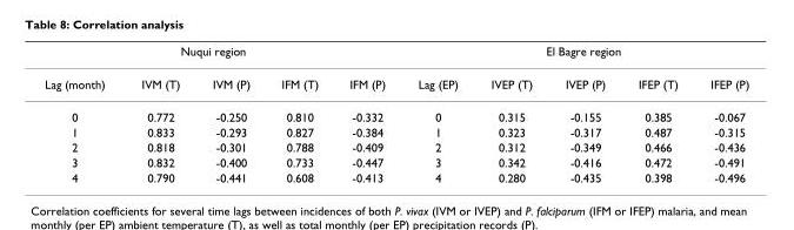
<table><thead><tr><td colspan="5">Nuqui region</td><td colspan="5">El Bagre region</td></tr><tr><td>Lag (month)</td><td>IVM (T)</td><td>IVM (P)</td><td>IFM (T)</td><td>IFM (P)</td><td>Lag (EP)</td><td>IVEP (T)</td><td>IVEP (P)</td><td>IFEP (T)</td><td>IFEP (P)</td></tr></thead><tbody><tr><td>0</td><td>0.772</td><td>-0.250</td><td>0.810</td><td>-0.332</td><td>0</td><td>0.315</td><td>-0.155</td><td>0.385</td><td>-0.067</td></tr><tr><td>1</td><td>0.833</td><td>-0.293</td><td>0.827</td><td>-0.384</td><td>1</td><td>0.323</td><td>-0.317</td><td>0.487</td><td>-0.315</td></tr><tr><td>2</td><td>0.818</td><td>-0.301</td><td>0.788</td><td>-0.409</td><td>2</td><td>0.312</td><td>-0.349</td><td>0.466</td><td>-0.436</td></tr><tr><td>3</td><td>0.832</td><td>-0.400</td><td>0.733</td><td>-0.447</td><td>3</td><td>0.342</td><td>-0.416</td><td>0.472</td><td>-0.491</td></tr><tr><td>4</td><td>0.790</td><td>-0.441</td><td>0.608</td><td>-0.413</td><td>4</td><td>0.280</td><td>-0.435</td><td>0.398</td><td>-0.496</td></tr></tbody></table>